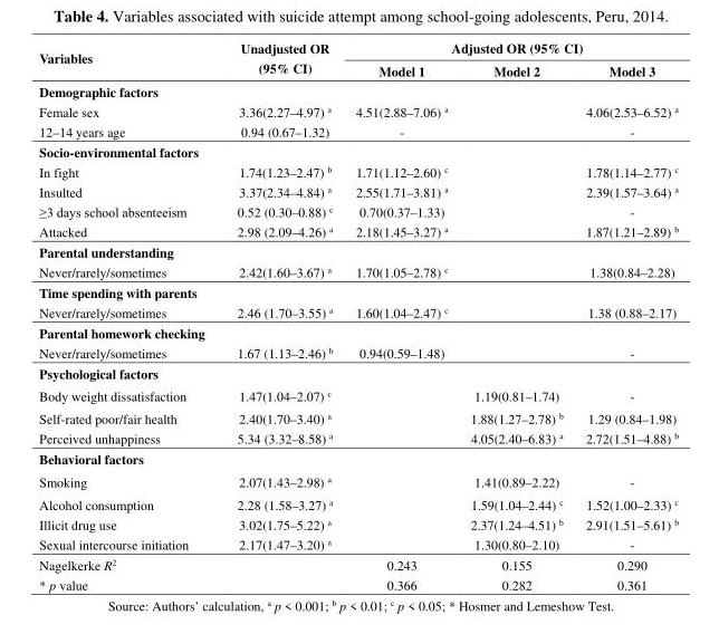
<table><thead><tr><td rowspan="2">Variables</td><td rowspan="2">Unadjusted OR (95% CI)</td><td colspan="3">Adjusted OR (95% CI)</td></tr><tr><td>Model 1</td><td>Model 2</td><td>Model 3</td></tr></thead><tbody><tr><td colspan="5">Demographic factors</td></tr><tr><td>Female sex</td><td>3.36(2.27–4.97) <sup>a</sup></td><td>4.51(2.88–7.06) <sup>a</sup></td><td></td><td>4.06(2.53–6.52) <sup>a</sup></td></tr><tr><td>12–14 years age</td><td>0.94 (0.67–1.32)</td><td>-</td><td></td><td>-</td></tr><tr><td colspan="5">Socio-environmental factors</td></tr><tr><td>In fight</td><td>1.74(1.23–2.47) <sup>b</sup></td><td>1.71(1.12–2.60) <sup>c</sup></td><td></td><td>1.78(1.14–2.77) <sup>c</sup></td></tr><tr><td>Insulted</td><td>3.37(2.34–4.84) <sup>a</sup></td><td>2.55(1.71–3.81) <sup>a</sup></td><td></td><td>2.39(1.57–3.64) <sup>a</sup></td></tr><tr><td>≥3 days school absenteeism</td><td>0.52 (0.30–0.88) <sup>c</sup></td><td>0.70(0.37–1.33)</td><td></td><td>-</td></tr><tr><td>Attacked</td><td>2.98 (2.09–4.26) <sup>a</sup></td><td>2.18(1.45–3.27) <sup>a</sup></td><td></td><td>1.87(1.21–2.89) <sup>b</sup></td></tr><tr><td colspan="5">Parental understanding</td></tr><tr><td>Never/rarely/sometimes</td><td>2.42(1.60–3.67) <sup>a</sup></td><td>1.70(1.05–2.78) <sup>c</sup></td><td></td><td>1.38(0.84–2.28)</td></tr><tr><td colspan="5">Time spending with parents</td></tr><tr><td>Never/rarely/sometimes</td><td>2.46 (1.70–3.55) <sup>a</sup></td><td>1.60(1.04–2.47) <sup>c</sup></td><td></td><td>1.38 (0.88–2.17)</td></tr><tr><td colspan="5">Parental homework checking</td></tr><tr><td>Never/rarely/sometimes</td><td>1.67 (1.13–2.46) <sup>b</sup></td><td>0.94(0.59–1.48)</td><td></td><td>-</td></tr><tr><td colspan="5">Psychological factors</td></tr><tr><td>Body weight dissatisfaction</td><td>1.47(1.04–2.07) <sup>c</sup></td><td></td><td>1.19(0.81–1.74)</td><td>-</td></tr><tr><td>Self-rated poor/fair health</td><td>2.40(1.70–3.40) <sup>a</sup></td><td></td><td>1.88(1.27–2.78) <sup>b</sup></td><td>1.29 (0.84–1.98)</td></tr><tr><td>Perceived unhappiness</td><td>5.34 (3.32–8.58) <sup>a</sup></td><td></td><td>4.05(2.40–6.83) <sup>a</sup></td><td>2.72(1.51–4.88) <sup>b</sup></td></tr><tr><td colspan="5">Behavioral factors</td></tr><tr><td>Smoking</td><td>2.07(1.43–2.98) <sup>a</sup></td><td></td><td>1.41(0.89–2.22)</td><td>-</td></tr><tr><td>Alcohol consumption</td><td>2.28 (1.58–3.27) <sup>a</sup></td><td></td><td>1.59(1.04–2.44) <sup>c</sup></td><td>1.52(1.00–2.33) <sup>c</sup></td></tr><tr><td>Illicit drug use</td><td>3.02(1.75–5.22) <sup>a</sup></td><td></td><td>2.37(1.24–4.51) <sup>b</sup></td><td>2.91(1.51–5.61) <sup>b</sup></td></tr><tr><td>Sexual intercourse initiation</td><td>2.17(1.47–3.20) <sup>a</sup></td><td></td><td>1.30(0.80–2.10)</td><td>-</td></tr><tr><td>Nagelkerke R<sup>2</sup></td><td></td><td>0.243</td><td>0.155</td><td>0.290</td></tr><tr><td>* p value</td><td></td><td>0.366</td><td>0.282</td><td>0.361</td></tr></tbody></table>